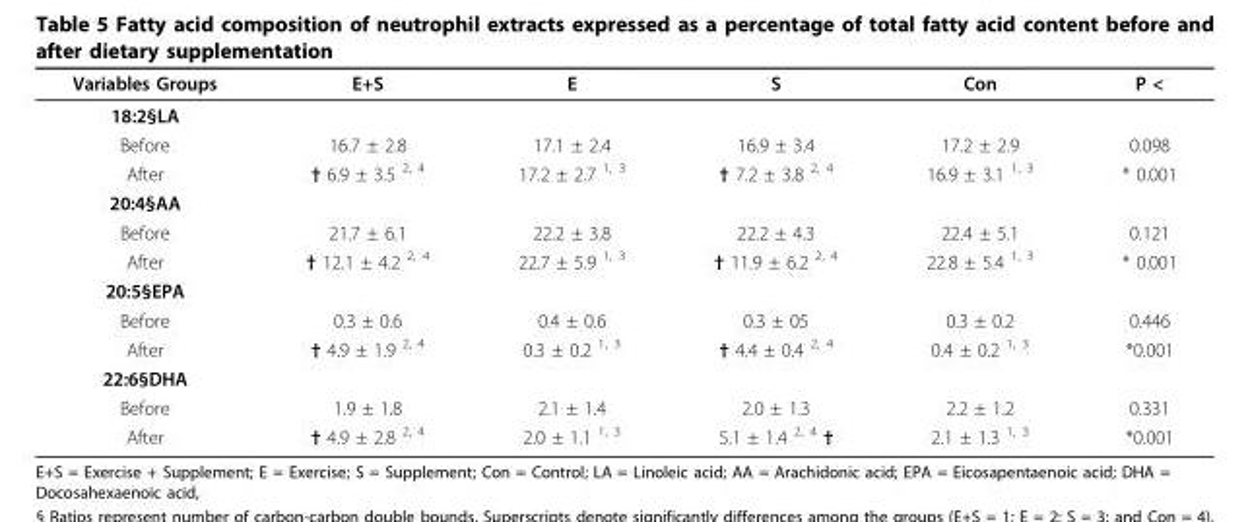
<table><thead><tr><td>Variables Groups</td><td>E+S</td><td>E</td><td>S</td><td>Con</td><td>P &lt;</td></tr></thead><tbody><tr><td colspan="6">18:2§LA</td></tr><tr><td>Before</td><td>16.7 ± 2.8</td><td>17.1 ± 2.4</td><td>16.9 ± 3.4</td><td>17.2 ± 2.9</td><td>0.098</td></tr><tr><td>After</td><td>† 6.9 ± 3.5 <sup>2, 4</sup></td><td>17.2 ± 2.7 <sup>1, 3</sup></td><td>† 7.2 ± 3.8 <sup>2, 4</sup></td><td>16.9 ± 3.1 <sup>1, 3</sup></td><td>* 0.001</td></tr><tr><td colspan="6">20:4§AA</td></tr><tr><td>Before</td><td>21.7 ± 6.1</td><td>22.2 ± 3.8</td><td>22.2 ± 4.3</td><td>22.4 ± 5.1</td><td>0.121</td></tr><tr><td>After</td><td>† 12.1 ± 4.2 <sup>2, 4</sup></td><td>22.7 ± 5.9 <sup>1, 3</sup></td><td>† 11.9 ± 6.2 <sup>2, 4</sup></td><td>22.8 ± 5.4 <sup>1, 3</sup></td><td>* 0.001</td></tr><tr><td colspan="6">20:5§EPA</td></tr><tr><td>Before</td><td>0.3 ± 0.6</td><td>0.4 ± 0.6</td><td>0.3 ± 05</td><td>0.3 ± 0.2</td><td>0.446</td></tr><tr><td>After</td><td>† 4.9 ± 1.9 <sup>2, 4</sup></td><td>0.3 ± 0.2 <sup>1, 3</sup></td><td>† 4.4 ± 0.4 <sup>2, 4</sup></td><td>0.4 ± 0.2 <sup>1, 3</sup></td><td>*0.001</td></tr><tr><td colspan="6">22:6§DHA</td></tr><tr><td>Before</td><td>1.9 ± 1.8</td><td>2.1 ± 1.4</td><td>2.0 ± 1.3</td><td>2.2 ± 1.2</td><td>0.331</td></tr><tr><td>After</td><td>† 4.9 ± 2.8 <sup>2, 4</sup></td><td>2.0 ± 1.1 <sup>1, 3</sup></td><td>5.1 ± 1.4 <sup>2, 4</sup> †</td><td>2.1 ± 1.3 <sup>1, 3</sup></td><td>*0.001</td></tr></tbody></table>